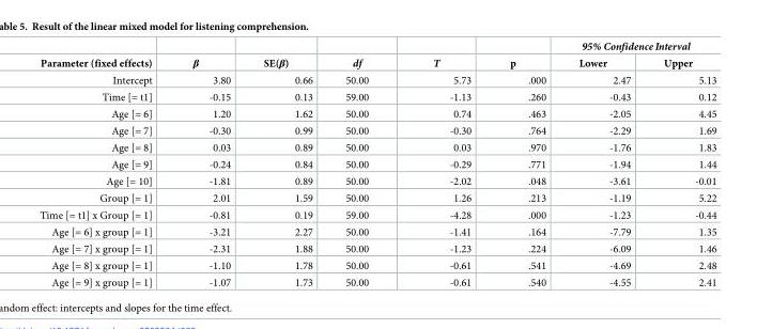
<table><thead><tr><td rowspan="2">Parameter (fixed effects)</td><td rowspan="2">β</td><td rowspan="2">SE(β)</td><td rowspan="2">df</td><td rowspan="2">T</td><td rowspan="2">p</td><td colspan="2">95% Confidence Interval</td></tr><tr><td>Lower</td><td>Upper</td></tr></thead><tbody><tr><td>Intercept</td><td>3.80</td><td>0.66</td><td>50.00</td><td>5.73</td><td>.000</td><td>2.47</td><td>5.13</td></tr><tr><td>Time [= t1]</td><td>-0.15</td><td>0.13</td><td>59.00</td><td>-1.13</td><td>.260</td><td>-0.43</td><td>0.12</td></tr><tr><td>Age [= 6]</td><td>1.20</td><td>1.62</td><td>50.00</td><td>0.74</td><td>.463</td><td>-2.05</td><td>4.45</td></tr><tr><td>Age [= 7]</td><td>-0.30</td><td>0.99</td><td>50.00</td><td>-0.30</td><td>.764</td><td>-2.29</td><td>1.69</td></tr><tr><td>Age [= 8]</td><td>0.03</td><td>0.89</td><td>50.00</td><td>0.03</td><td>.970</td><td>-1.76</td><td>1.83</td></tr><tr><td>Age [= 9]</td><td>-0.24</td><td>0.84</td><td>50.00</td><td>-0.29</td><td>.771</td><td>-1.94</td><td>1.44</td></tr><tr><td>Age [= 10]</td><td>-1.81</td><td>0.89</td><td>50.00</td><td>-2.02</td><td>.048</td><td>-3.61</td><td>-0.01</td></tr><tr><td>Group [= 1]</td><td>2.01</td><td>1.59</td><td>50.00</td><td>1.26</td><td>.213</td><td>-1.19</td><td>5.22</td></tr><tr><td>Time [= t1] x Group [= 1]</td><td>-0.81</td><td>0.19</td><td>59.00</td><td>-4.28</td><td>.000</td><td>-1.23</td><td>-0.44</td></tr><tr><td>Age [= 6] x group [= 1]</td><td>-3.21</td><td>2.27</td><td>50.00</td><td>-1.41</td><td>.164</td><td>-7.79</td><td>1.35</td></tr><tr><td>Age [= 7] x group [= 1]</td><td>-2.31</td><td>1.88</td><td>50.00</td><td>-1.23</td><td>.224</td><td>-6.09</td><td>1.46</td></tr><tr><td>Age [= 8] x group [= 1]</td><td>-1.10</td><td>1.78</td><td>50.00</td><td>-0.61</td><td>.541</td><td>-4.69</td><td>2.48</td></tr><tr><td>Age [= 9] x group [= 1]</td><td>-1.07</td><td>1.73</td><td>50.00</td><td>-0.61</td><td>.540</td><td>-4.55</td><td>2.41</td></tr></tbody></table>